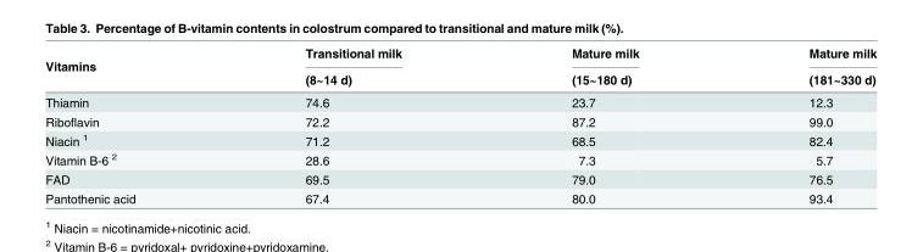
<table><thead><tr><td rowspan="2">Vitamins</td><td rowspan="2">Transitional milk (8~14 d)</td><td rowspan="2">Mature milk (15~180 d)</td><td rowspan="2">Mature milk (181~330 d)</td></tr><tr></tr></thead><tbody><tr><td>Thiamin</td><td>74.6</td><td>23.7</td><td>12.3</td></tr><tr><td>Riboflavin</td><td>72.2</td><td>87.2</td><td>99.0</td></tr><tr><td>Niacin <sup>1</sup></td><td>71.2</td><td>68.5</td><td>82.4</td></tr><tr><td>Vitamin B-6 <sup>2</sup></td><td>28.6</td><td>7.3</td><td>5.7</td></tr><tr><td>FAD</td><td>69.5</td><td>79.0</td><td>76.5</td></tr><tr><td>Pantothenic acid</td><td>67.4</td><td>80.0</td><td>93.4</td></tr></tbody></table>